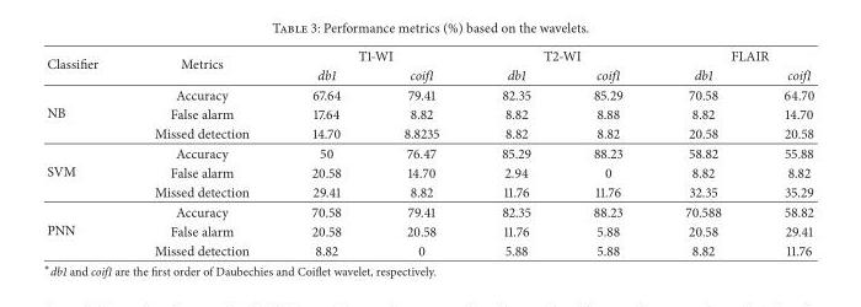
<table><thead><tr><td rowspan="2">Classifier</td><td rowspan="2">Metrics</td><td colspan="2">T1-WI</td><td colspan="2">T2-WI</td><td colspan="2">FLAIR</td></tr><tr><td>db1</td><td>coif1</td><td>db1</td><td>coif1</td><td>db1</td><td>coif1</td></tr></thead><tbody><tr><td rowspan="3">NB</td><td>Accuracy</td><td>67.64</td><td>79.41</td><td>82.35</td><td>85.29</td><td>70.58</td><td>64.70</td></tr><tr><td>False alarm</td><td>17.64</td><td>8.82</td><td>8.82</td><td>8.88</td><td>8.82</td><td>14.70</td></tr><tr><td>Missed detection</td><td>14.70</td><td>8.8235</td><td>8.82</td><td>8.82</td><td>20.58</td><td>20.58</td></tr><tr><td rowspan="3">SVM</td><td>Accuracy</td><td>50</td><td>76.47</td><td>85.29</td><td>88.23</td><td>58.82</td><td>55.88</td></tr><tr><td>False alarm</td><td>20.58</td><td>14.70</td><td>2.94</td><td>0</td><td>8.82</td><td>8.82</td></tr><tr><td>Missed detection</td><td>29.41</td><td>8.82</td><td>11.76</td><td>11.76</td><td>32.35</td><td>35.29</td></tr><tr><td rowspan="3">PNN</td><td>Accuracy</td><td>70.58</td><td>79.41</td><td>82.35</td><td>88.23</td><td>70.588</td><td>58.82</td></tr><tr><td>False alarm</td><td>20.58</td><td>20.58</td><td>11.76</td><td>5.88</td><td>20.58</td><td>29.41</td></tr><tr><td>Missed detection</td><td>8.82</td><td>0</td><td>5.88</td><td>5.88</td><td>8.82</td><td>11.76</td></tr></tbody></table>